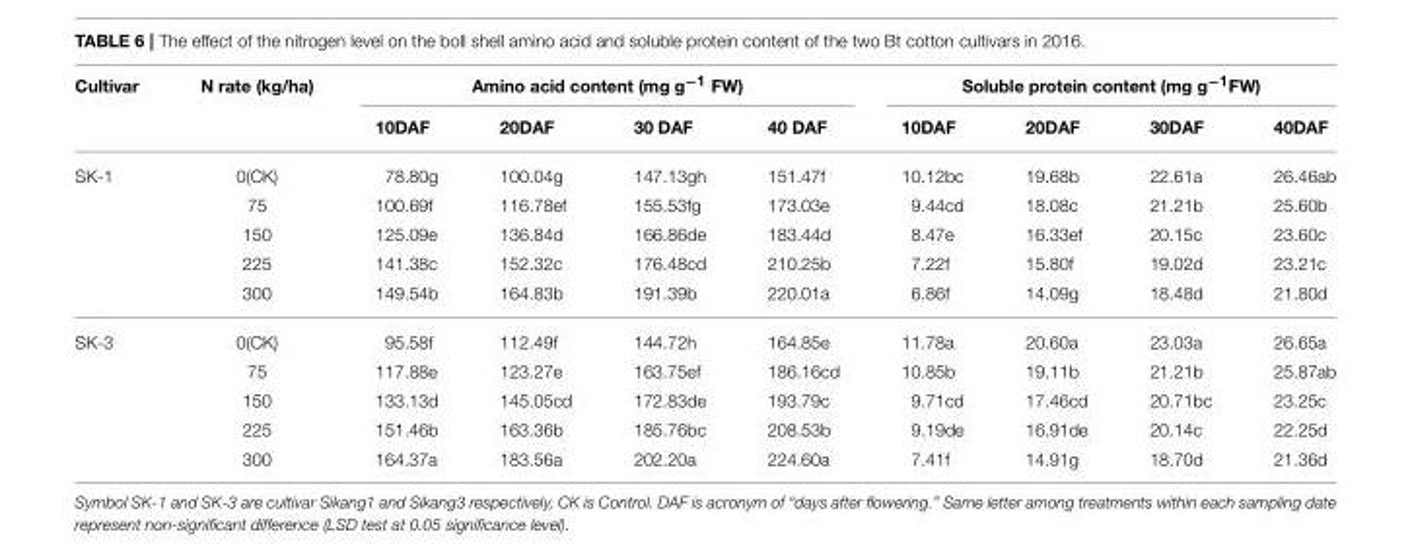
<table><thead><tr><td rowspan="2">Cultivar</td><td rowspan="2">N rate (kg/ha)</td><td colspan="4">Amino acid content (mg g<sup>−1</sup> FW)</td><td colspan="4">Soluble protein content (mg g<sup>−1</sup>FW)</td></tr><tr><td>10DAF</td><td>20DAF</td><td>30 DAF</td><td>40 DAF</td><td>10DAF</td><td>20DAF</td><td>30DAF</td><td>40DAF</td></tr></thead><tbody><tr><td rowspan="5">SK-1</td><td>0(CK)</td><td>78.80g</td><td>100.04g</td><td>147.13gh</td><td>151.47f</td><td>10.12bc</td><td>19.68b</td><td>22.61a</td><td>26.46ab</td></tr><tr><td>75</td><td>100.69f</td><td>116.78ef</td><td>155.53fg</td><td>173.03e</td><td>9.44cd</td><td>18.08c</td><td>21.21b</td><td>25.60b</td></tr><tr><td>150</td><td>125.09e</td><td>136.84d</td><td>166.86de</td><td>183.44d</td><td>8.47e</td><td>16.33ef</td><td>20.15c</td><td>23.60c</td></tr><tr><td>225</td><td>141.38c</td><td>152.32c</td><td>176.48cd</td><td>210.25b</td><td>7.22f</td><td>15.80f</td><td>19.02d</td><td>23.21c</td></tr><tr><td>300</td><td>149.54b</td><td>164.83b</td><td>191.39b</td><td>220.01a</td><td>6.86f</td><td>14.09g</td><td>18.48d</td><td>21.80d</td></tr><tr><td rowspan="5">SK-3</td><td>0(CK)</td><td>95.58f</td><td>112.49f</td><td>144.72h</td><td>164.85e</td><td>11.78a</td><td>20.60a</td><td>23.03a</td><td>26.65a</td></tr><tr><td>75</td><td>117.88e</td><td>123.27e</td><td>163.75ef</td><td>186.16cd</td><td>10.85b</td><td>19.11b</td><td>21.21b</td><td>25.87ab</td></tr><tr><td>150</td><td>133.13d</td><td>145.05cd</td><td>172.83de</td><td>193.79c</td><td>9.71cd</td><td>17.46cd</td><td>20.71bc</td><td>23.25c</td></tr><tr><td>225</td><td>151.46b</td><td>163.36b</td><td>185.76bc</td><td>208.53b</td><td>9.19de</td><td>16.91de</td><td>20.14c</td><td>22.25d</td></tr><tr><td>300</td><td>164.37a</td><td>183.56a</td><td>202.20a</td><td>224.60a</td><td>7.41f</td><td>14.91g</td><td>18.70d</td><td>21.36d</td></tr></tbody></table>